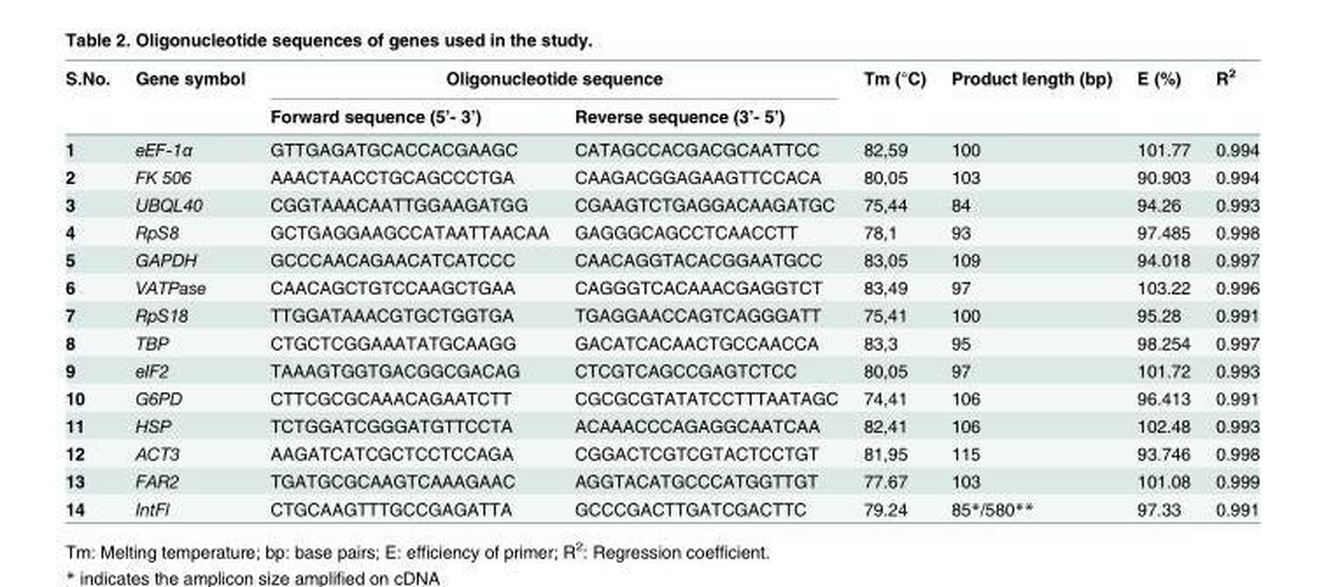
<table><thead><tr><td rowspan="2">S.No.</td><td rowspan="2">Gene symbol</td><td colspan="2">Oligonucleotide sequence</td><td rowspan="2">Tm (°C)</td><td rowspan="2">Product length (bp)</td><td rowspan="2">E (%)</td><td rowspan="2">R<sup>2</sup></td></tr><tr><td>Forward sequence (5’- 3’)</td><td>Reverse sequence (3’- 5’)</td></tr></thead><tbody><tr><td>1</td><td>eEF-1α</td><td>GTTGAGATGCACCACGAAGC</td><td>CATAGCCACGACGCAATTCC</td><td>82,59</td><td>100</td><td>101.77</td><td>0.994</td></tr><tr><td>2</td><td>FK 506</td><td>AAACTAACCTGCAGCCCTGA</td><td>CAAGACGGAGAAGTTCCACA</td><td>80,05</td><td>103</td><td>90.903</td><td>0.994</td></tr><tr><td>3</td><td>UBQL40</td><td>CGGTAAACAATTGGAAGATGG</td><td>CGAAGTCTGAGGACAAGATGC</td><td>75,44</td><td>84</td><td>94.26</td><td>0.993</td></tr><tr><td>4</td><td>RpS8</td><td>GCTGAGGAAGCCATAATTAACAA</td><td>GAGGGCAGCCTCAACCTT</td><td>78,1</td><td>93</td><td>97.485</td><td>0.998</td></tr><tr><td>5</td><td>GAPDH</td><td>GCCCAACAGAACATCATCCC</td><td>CAACAGGTACACGGAATGCC</td><td>83,05</td><td>109</td><td>94.018</td><td>0.997</td></tr><tr><td>6</td><td>VATPase</td><td>CAACAGCTGTCCAAGCTGAA</td><td>CAGGGTCACAAACGAGGTCT</td><td>83,49</td><td>97</td><td>103.22</td><td>0.996</td></tr><tr><td>7</td><td>RpS18</td><td>TTGGATAAACGTGCTGGTGA</td><td>TGAGGAACCAGTCAGGGATT</td><td>75,41</td><td>100</td><td>95.28</td><td>0.991</td></tr><tr><td>8</td><td>TBP</td><td>CTGCTCGGAAATATGCAAGG</td><td>GACATCACAACTGCCAACCA</td><td>83,3</td><td>95</td><td>98.254</td><td>0.997</td></tr><tr><td>9</td><td>eIF2</td><td>TAAAGTGGTGACGGCGACAG</td><td>CTCGTCAGCCGAGTCTCC</td><td>80,05</td><td>97</td><td>101.72</td><td>0.993</td></tr><tr><td>10</td><td>G6PD</td><td>CTTCGCGCAAACAGAATCTT</td><td>CGCGCGTATATCCTTTAATAGC</td><td>74,41</td><td>106</td><td>96.413</td><td>0.991</td></tr><tr><td>11</td><td>HSP</td><td>TCTGGATCGGGATGTTCCTA</td><td>ACAAACCCAGAGGCAATCAA</td><td>82,41</td><td>106</td><td>102.48</td><td>0.993</td></tr><tr><td>12</td><td>ACT3</td><td>AAGATCATCGCTCCTCCAGA</td><td>CGGACTCGTCGTACTCCTGT</td><td>81,95</td><td>115</td><td>93.746</td><td>0.998</td></tr><tr><td>13</td><td>FAR2</td><td>TGATGCGCAAGTCAAAGAAC</td><td>AGGTACATGCCCATGGTTGT</td><td>77.67</td><td>103</td><td>101.08</td><td>0.999</td></tr><tr><td>14</td><td>IntFl</td><td>CTGCAAGTTTGCCGAGATTA</td><td>GCCCGACTTGATCGACTTC</td><td>79.24</td><td>85*/580**</td><td>97.33</td><td>0.991</td></tr></tbody></table>